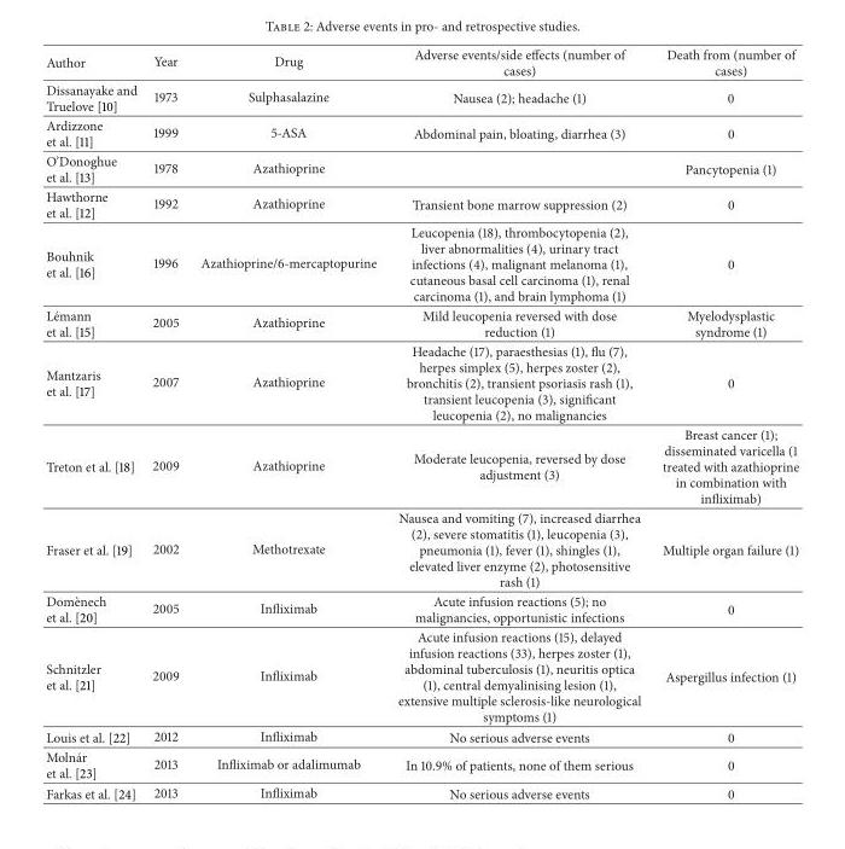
<table><thead><tr><td>Author</td><td>Year</td><td>Drug</td><td>Adverse events/side effects (number of cases)</td><td>Death from (number of cases)</td></tr></thead><tbody><tr><td>Dissanayake and Truelove [10]</td><td>1973</td><td>Sulphasalazine</td><td>Nausea (2); headache (1)</td><td>0</td></tr><tr><td>Ardizzone et al. [11]</td><td>1999</td><td>5-ASA</td><td>Abdominal pain, bloating, diarrhea (3)</td><td>0</td></tr><tr><td>O’Donoghue et al. [13]</td><td>1978</td><td>Azathioprine</td><td></td><td>Pancytopenia (1)</td></tr><tr><td>Hawthorne et al. [12]</td><td>1992</td><td>Azathioprine</td><td>Transient bone marrow suppression (2)</td><td>0</td></tr><tr><td>Bouhnik et al. [16]</td><td>1996</td><td>Azathioprine/6-mercaptopurine</td><td>Leucopenia (18), thrombocytopenia (2), liver abnormalities (4), urinary tract infections (4), malignant melanoma (1), cutaneous basal cell carcinoma (1), renal carcinoma (1), and brain lymphoma (1)</td><td>0</td></tr><tr><td>L´emann et al. [15]</td><td>2005</td><td>Azathioprine</td><td>Mild leucopenia reversed with dose reduction (1)</td><td>Myelodysplastic syndrome (1)</td></tr><tr><td>Mantzaris et al. [17]</td><td>2007</td><td>Azathioprine</td><td>Headache (17), paraesthesias (1), flu (7), herpes simplex (5), herpes zoster (2), bronchitis (2), transient psoriasis rash (1), transient leucopenia (3), significant leucopenia (2), no malignancies</td><td>0</td></tr><tr><td>Treton et al. [18]</td><td>2009</td><td>Azathioprine</td><td>Moderate leucopenia, reversed by dose adjustment (3)</td><td>Breast cancer (1); disseminated varicella (1 treated with azathioprine in combination with infliximab)</td></tr><tr><td>Fraser et al. [19]</td><td>2002</td><td>Methotrexate</td><td>Nausea and vomiting (7), increased diarrhea (2), severe stomatitis (1), leucopenia (3), pneumonia (1), fever (1), shingles (1), elevated liver enzyme (2), photosensitive rash (1)</td><td>Multiple organ failure (1)</td></tr><tr><td>Dom`enech et al. [20]</td><td>2005</td><td>Infliximab</td><td>Acute infusion reactions (5); no malignancies, opportunistic infections</td><td>0</td></tr><tr><td>Schnitzler et al. [21]</td><td>2009</td><td>Infliximab</td><td>Acute infusion reactions (15), delayed infusion reactions (33), herpes zoster (1), abdominal tuberculosis (1), neuritis optica (1), central demyalinising lesion (1), extensive multiple sclerosis-like neurological symptoms (1)</td><td>Aspergillus infection (1)</td></tr><tr><td>Louis et al. [22]</td><td>2012</td><td>Infliximab</td><td>No serious adverse events</td><td>0</td></tr><tr><td>Moln´ar et al. [23]</td><td>2013</td><td>Infliximab or adalimumab</td><td>In 10.9% of patients, none of them serious</td><td>0</td></tr><tr><td>Farkas et al. [24]</td><td>2013</td><td>Infliximab</td><td>No serious adverse events</td><td>0</td></tr></tbody></table>